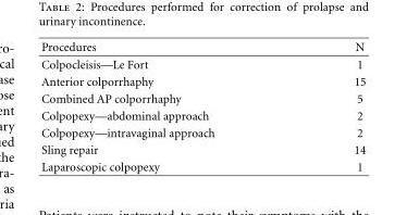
<table><thead><tr><td>Procedures</td><td>N</td></tr></thead><tbody><tr><td>Colpocleisis—Le Fort</td><td>1</td></tr><tr><td>Anterior colporrhaphy</td><td>15</td></tr><tr><td>Combined AP colporrhaphy</td><td>5</td></tr><tr><td>Colpopexy—abdominal approach</td><td>2</td></tr><tr><td>Colpopexy—intravaginal approach</td><td>2</td></tr><tr><td>Sling repair</td><td>14</td></tr><tr><td>Laparoscopic colpopexy</td><td>1</td></tr></tbody></table>